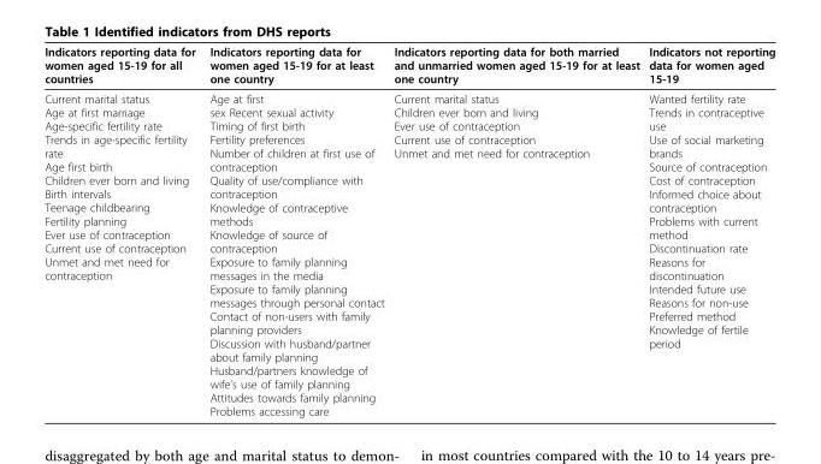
<table><thead><tr><td>Indicators reporting data for women aged 15-19 for all countries</td><td>Indicators reporting data for women aged 15-19 for at least one country</td><td>Indicators reporting data for both married and unmarried women aged 15-19 for at least one country</td><td>Indicators not reporting data for women aged 15-19</td></tr></thead><tbody><tr><td>Current marital status Age at first marriage Age-specific fertility rate Trends in age-specific fertility rate Age first birth Children ever born and living Birth intervals Teenage childbearing Fertility planning Ever use of contraception Current use of contraception Unmet and met need for contraception</td><td>Age at first sex Recent sexual activity Timing of first birth Fertility preferences Number of children at first use of contraception Quality of use/compliance with contraception Knowledge of contraceptive methods Knowledge of source of contraception Exposure to family planning messages in the media Exposure to family planning messages through personal contact Contact of non-users with family planning providers Discussion with husband/partner about family planning Husband/partners knowledge of wife’s use of family planning Attitudes towards family planning Problems accessing care</td><td>Current marital status Children ever born and living Ever use of contraception Current use of contraception Unmet and met need for contraception</td><td>Wanted fertility rate Trends in contraceptive use Use of social marketing brands Source of contraception Cost of contraception Informed choice about contraception Problems with current method Discontinuation rate Reasons for discontinuation Intended future use Reasons for non-use Preferred method Knowledge of fertile period</td></tr></tbody></table>